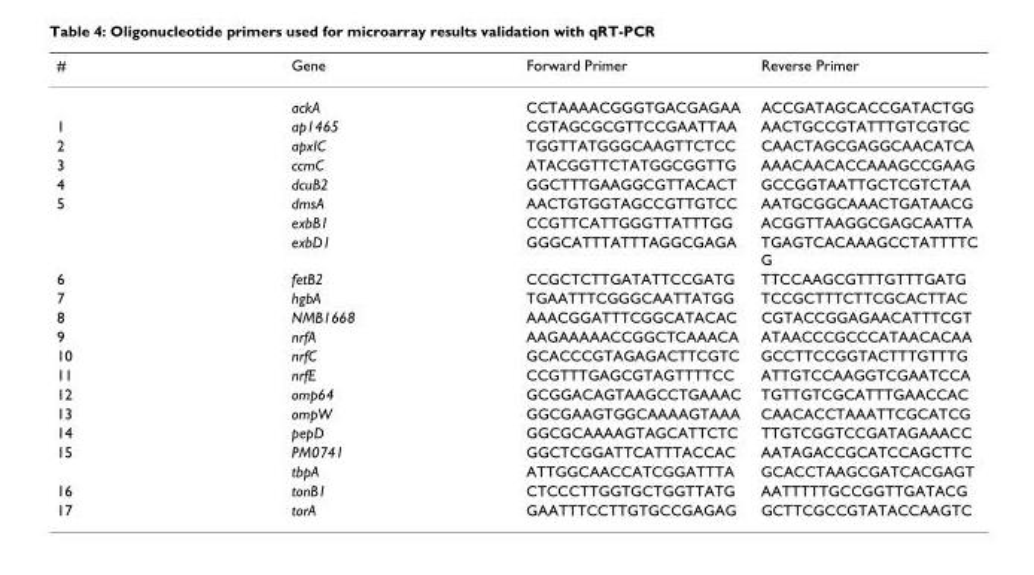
<table><thead><tr><td>#</td><td>Gene</td><td>Forward Primer</td><td>Reverse Primer</td></tr></thead><tbody><tr><td></td><td>ackA</td><td>CCTAAAACGGGTGACGAGAA</td><td>ACCGATAGCACCGATACTGG</td></tr><tr><td>1</td><td>ap1465</td><td>CGTAGCGCGTTCCGAATTAA</td><td>AACTGCCGTATTTGTCGTGC</td></tr><tr><td>2</td><td>apxIC</td><td>TGGTTATGGGCAAGTTCTCC</td><td>CAACTAGCGAGGCAACATCA</td></tr><tr><td>3</td><td>ccmC</td><td>ATACGGTTCTATGGCGGTTG</td><td>AAACAACACCAAAGCCGAAG</td></tr><tr><td>4</td><td>dcuB2</td><td>GGCTTTGAAGGCGTTACACT</td><td>GCCGGTAATTGCTCGTCTAA</td></tr><tr><td rowspan="3">5</td><td>dmsA</td><td>AACTGTGGTAGCCGTTGTCC</td><td>AATGCGGCAAACTGATAACG</td></tr><tr><td>exbB1</td><td>CCGTTCATTGGGTTATTTGG</td><td>ACGGTTAAGGCGAGCAATTA</td></tr><tr><td>exbD1</td><td>GGGCATTTATTTAGGCGAGA</td><td>TGAGTCACAAAGCCTATTTTC G</td></tr><tr><td>6</td><td>fetB2</td><td>CCGCTCTTGATATTCCGATG</td><td>TTCCAAGCGTTTGTTTGATG</td></tr><tr><td>7</td><td>hgbA</td><td>TGAATTTCGGGCAATTATGG</td><td>TCCGCTTTCTTCGCACTTAC</td></tr><tr><td>8</td><td>NMB1668</td><td>AAACGGATTTCGGCATACAC</td><td>CGTACCGGAGAACATTTCGT</td></tr><tr><td>9</td><td>nrfA</td><td>AAGAAAAACCGGCTCAAACA</td><td>ATAACCCGCCCATAACACAA</td></tr><tr><td>10</td><td>nrfC</td><td>GCACCCGTAGAGACTTCGTC</td><td>GCCTTCCGGTACTTTGTTTG</td></tr><tr><td>11</td><td>nrfE</td><td>CCGTTTGAGCGTAGTTTTCC</td><td>ATTGTCCAAGGTCGAATCCA</td></tr><tr><td>12</td><td>omp64</td><td>GCGGACAGTAAGCCTGAAAC</td><td>TGTTGTCGCATTTGAACCAC</td></tr><tr><td>13</td><td>ompW</td><td>GGCGAAGTGGCAAAAGTAAA</td><td>CAACACCTAAATTCGCATCG</td></tr><tr><td>14</td><td>pepD</td><td>GGCGCAAAAGTAGCATTCTC</td><td>TTGTCGGTCCGATAGAAACC</td></tr><tr><td rowspan="2">15</td><td>PM0741</td><td>GGCTCGGATTCATTTACCAC</td><td>AATAGACCGCATCCAGCTTC</td></tr><tr><td>tbpA</td><td>ATTGGCAACCATCGGATTTA</td><td>GCACCTAAGCGATCACGAGT</td></tr><tr><td>16</td><td>tonB1</td><td>CTCCCTTGGTGCTGGTTATG</td><td>AATTTTTGCCGGTTGATACG</td></tr><tr><td>17</td><td>torA</td><td>GAATTTCCTTGTGCCGAGAG</td><td>GCTTCGCCGTATACCAAGTC</td></tr></tbody></table>